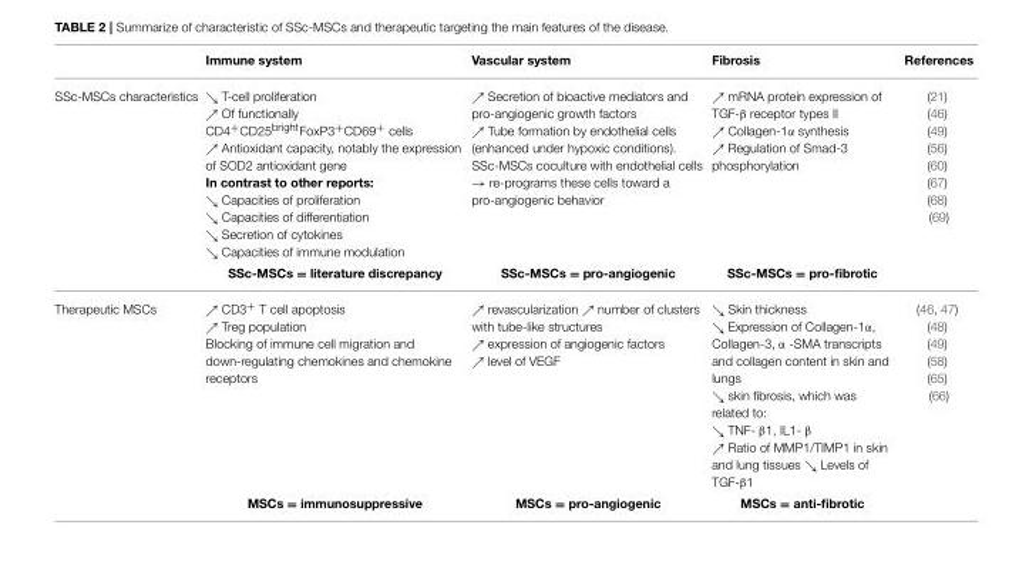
<table><thead><tr><td></td><td>Immune system</td><td>Vascular system</td><td>Fibrosis</td><td>References</td></tr></thead><tbody><tr><td rowspan="2">SSc-MSCs characteristics</td><td>ց T-cell proliferation ր Of functionally CD4+CD25brightFoxP3+CD69+ cells ր Antioxidant capacity, notably the expression of SOD2 antioxidant gene In contrast to other reports: ց Capacities of proliferation ց Capacities of differentiation ց Secretion of cytokines ց Capacities of immune modulation</td><td>ր Secretion of bioactive mediators and pro-angiogenic growth factors ր Tube formation by endothelial cells (enhanced under hypoxic conditions). SSc-MSCs coculture with endothelial cells → re-programs these cells toward a pro-angiogenic behavior</td><td>ր mRNA protein expression of TGF-β receptor types II ր Collagen-1α synthesis ր Regulation of Smad-3 phosphorylation</td><td>(21) (46) (49) (56) (60) (67) (68) (69)</td></tr><tr><td>SSc-MSCs = literature discrepancy</td><td>SSc-MSCs = pro-angiogenic</td><td>SSc-MSCs = pro-fibrotic</td><td></td></tr><tr><td rowspan="2">Therapeutic MSCs</td><td>ր CD3+ T cell apoptosis ր Treg population Blocking of immune cell migration and down-regulating chemokines and chemokine receptors</td><td>ր revascularization ր number of clusters with tube-like structures ր expression of angiogenic factors ր level of VEGF</td><td>ց Skin thickness ց Expression of Collagen-1α, Collagen-3, α -SMA transcripts and collagen content in skin and lungs ց skin fibrosis, which was related to: ց TNF- β1, IL1- β ր Ratio of MMP1/TIMP1 in skin and lung tissues ց Levels of TGF-β1</td><td>(46, 47) (48) (49) (58) (65) (66)</td></tr><tr><td>MSCs = immunosuppressive</td><td>MSCs = pro-angiogenic</td><td>MSCs = anti-fibrotic</td><td></td></tr></tbody></table>